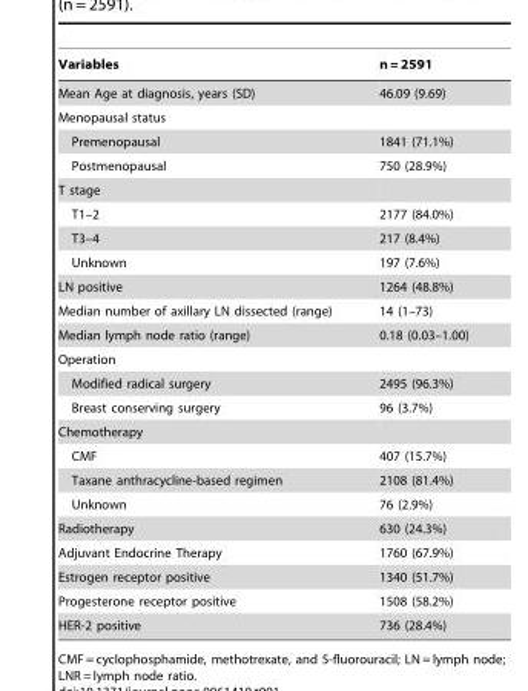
<table><thead><tr><td>Variables</td><td>n = 2591</td></tr></thead><tbody><tr><td>Mean Age at diagnosis, years (SD)</td><td>46.09 (9.69)</td></tr><tr><td colspan="2">Menopausal status</td></tr><tr><td>Premenopausal</td><td>1841 (71.1%)</td></tr><tr><td>Postmenopausal</td><td>750 (28.9%)</td></tr><tr><td colspan="2">T stage</td></tr><tr><td>T1–2</td><td>2177 (84.0%)</td></tr><tr><td>T3–4</td><td>217 (8.4%)</td></tr><tr><td>Unknown</td><td>197 (7.6%)</td></tr><tr><td>LN positive</td><td>1264 (48.8%)</td></tr><tr><td>Median number of axillary LN dissected (range)</td><td>14 (1–73)</td></tr><tr><td>Median lymph node ratio (range)</td><td>0.18 (0.03–1.00)</td></tr><tr><td colspan="2">Operation</td></tr><tr><td>Modified radical surgery</td><td>2495 (96.3%)</td></tr><tr><td>Breast conserving surgery</td><td>96 (3.7%)</td></tr><tr><td colspan="2">Chemotherapy</td></tr><tr><td>CMF</td><td>407 (15.7%)</td></tr><tr><td>Taxane anthracycline-based regimen</td><td>2108 (81.4%)</td></tr><tr><td>Unknown</td><td>76 (2.9%)</td></tr><tr><td>Radiotherapy</td><td>630 (24.3%)</td></tr><tr><td>Adjuvant Endocrine Therapy</td><td>1760 (67.9%)</td></tr><tr><td>Estrogen receptor positive</td><td>1340 (51.7%)</td></tr><tr><td>Progesterone receptor positive</td><td>1508 (58.2%)</td></tr><tr><td>HER-2 positive</td><td>736 (28.4%)</td></tr></tbody></table>